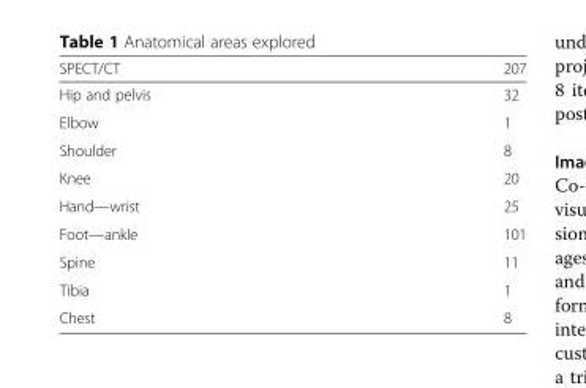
<table><thead><tr><td>SPECT/CT</td><td>207</td></tr></thead><tbody><tr><td>Hip and pelvis</td><td>32</td></tr><tr><td>Elbow</td><td>1</td></tr><tr><td>Shoulder</td><td>8</td></tr><tr><td>Knee</td><td>20</td></tr><tr><td>Hand—wrist</td><td>25</td></tr><tr><td>Foot—ankle</td><td>101</td></tr><tr><td>Spine</td><td>11</td></tr><tr><td>Tibia</td><td>1</td></tr><tr><td>Chest</td><td>8</td></tr></tbody></table>